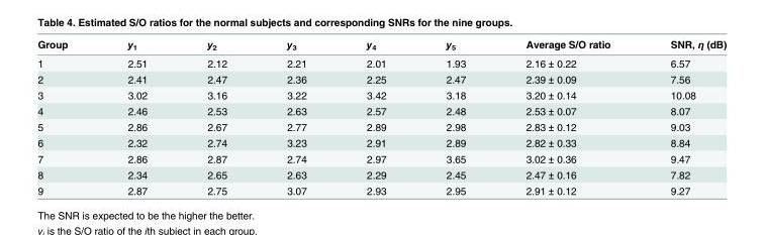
<table><thead><tr><td>Group</td><td>y<sub>1</sub></td><td>y<sub>2</sub></td><td>y<sub>3</sub></td><td>y<sub>4</sub></td><td>y<sub>5</sub></td><td>Average S/O ratio</td><td>SNR, η (dB)</td></tr></thead><tbody><tr><td>1</td><td>2.51</td><td>2.12</td><td>2.21</td><td>2.01</td><td>1.93</td><td>2.16 ± 0.22</td><td>6.57</td></tr><tr><td>2</td><td>2.41</td><td>2.47</td><td>2.36</td><td>2.25</td><td>2.47</td><td>2.39 ± 0.09</td><td>7.56</td></tr><tr><td>3</td><td>3.02</td><td>3.16</td><td>3.22</td><td>3.42</td><td>3.18</td><td>3.20 ± 0.14</td><td>10.08</td></tr><tr><td>4</td><td>2.46</td><td>2.53</td><td>2.63</td><td>2.57</td><td>2.48</td><td>2.53 ± 0.07</td><td>8.07</td></tr><tr><td>5</td><td>2.86</td><td>2.67</td><td>2.77</td><td>2.89</td><td>2.98</td><td>2.83 ± 0.12</td><td>9.03</td></tr><tr><td>6</td><td>2.32</td><td>2.74</td><td>3.23</td><td>2.91</td><td>2.89</td><td>2.82 ± 0.33</td><td>8.84</td></tr><tr><td>7</td><td>2.86</td><td>2.87</td><td>2.74</td><td>2.97</td><td>3.65</td><td>3.02 ± 0.36</td><td>9.47</td></tr><tr><td>8</td><td>2.34</td><td>2.65</td><td>2.63</td><td>2.29</td><td>2.45</td><td>2.47 ± 0.16</td><td>7.82</td></tr><tr><td>9</td><td>2.87</td><td>2.75</td><td>3.07</td><td>2.93</td><td>2.95</td><td>2.91 ± 0.12</td><td>9.27</td></tr></tbody></table>